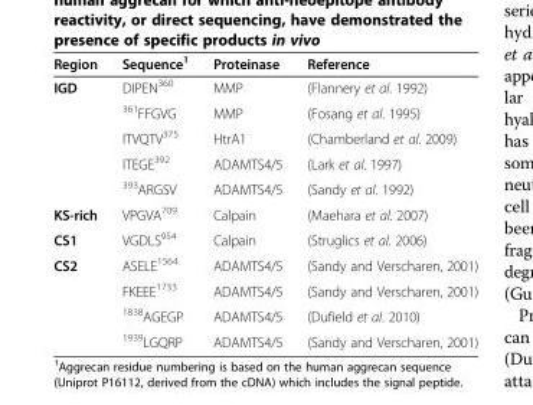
<table><thead><tr><td>Region</td><td>Sequence<sup>1</sup></td><td>Proteinase</td><td>Reference</td></tr></thead><tbody><tr><td rowspan="5">IGD</td><td>DIPEN<sup>360</sup></td><td>MMP</td><td>(Flannery et al. 1992)</td></tr><tr><td><sup>361</sup>FFGVG</td><td>MMP</td><td>(Fosang et al. 1995)</td></tr><tr><td>ITVQTV<sup>375</sup></td><td>HtrA1</td><td>(Chamberland et al. 2009)</td></tr><tr><td>ITEGE<sup>392</sup></td><td>ADAMTS4/5</td><td>(Lark et al. 1997)</td></tr><tr><td><sup>393</sup>ARGSV</td><td>ADAMTS4/5</td><td>(Sandy et al. 1992)</td></tr><tr><td>KS-rich</td><td>VPGVA<sup>709</sup></td><td>Calpain</td><td>(Maehara et al. 2007)</td></tr><tr><td>CS1</td><td>VGDLS<sup>954</sup></td><td>Calpain</td><td>(Struglics et al. 2006)</td></tr><tr><td rowspan="4">CS2</td><td>ASELE<sup>1564</sup></td><td>ADAMTS4/5</td><td>(Sandy and Verscharen, 2001)</td></tr><tr><td>FKEEE<sup>1733</sup></td><td>ADAMTS4/5</td><td>(Sandy and Verscharen, 2001)</td></tr><tr><td><sup>1838</sup>AGEGP</td><td>ADAMTS4/5</td><td>(Dufield et al. 2010)</td></tr><tr><td><sup>1939</sup>LGQRP</td><td>ADAMTS4/5</td><td>(Sandy and Verscharen, 2001)</td></tr></tbody></table>